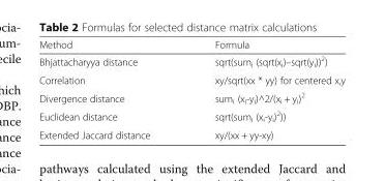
<table><thead><tr><td>Method</td><td>Formula</td></tr></thead><tbody><tr><td>Bhjattacharyya distance</td><td>sqrt(sum<sub>i</sub> (sqrt(x<sub>i</sub>)–sqrt(y<sub>i</sub>))<sup>2</sup>)</td></tr><tr><td>Correlation</td><td>xy/sqrt(xx * yy) for centered x,y</td></tr><tr><td>Divergence distance</td><td>sum<sub>i</sub> (x<sub>i</sub>-y<sub>i</sub>)^2/(x<sub>i</sub> + y<sub>i</sub>)<sup>2</sup></td></tr><tr><td>Euclidean distance</td><td>sqrt(sum<sub>i</sub> (x<sub>i</sub>-y<sub>i</sub>)<sup>2</sup>))</td></tr><tr><td>Extended Jaccard distance</td><td>xy/(xx + yy-xy)</td></tr></tbody></table>